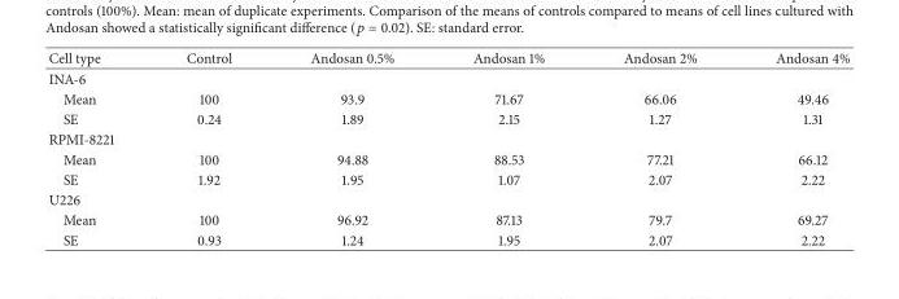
<table><thead><tr><td>Cell type</td><td>Control</td><td>Andosan 0.5%</td><td>Andosan 1%</td><td>Andosan 2%</td><td>Andosan 4%</td></tr></thead><tbody><tr><td colspan="6">INA-6</td></tr><tr><td>Mean</td><td>100</td><td>93.9</td><td>71.67</td><td>66.06</td><td>49.46</td></tr><tr><td>SE</td><td>0.24</td><td>1.89</td><td>2.15</td><td>1.27</td><td>1.31</td></tr><tr><td colspan="6">RPMI-8221</td></tr><tr><td>Mean</td><td>100</td><td>94.88</td><td>88.53</td><td>77.21</td><td>66.12</td></tr><tr><td>SE</td><td>1.92</td><td>1.95</td><td>1.07</td><td>2.07</td><td>2.22</td></tr><tr><td colspan="6">U226</td></tr><tr><td>Mean</td><td>100</td><td>96.92</td><td>87.13</td><td>79.7</td><td>69.27</td></tr><tr><td>SE</td><td>0.93</td><td>1.24</td><td>1.95</td><td>2.07</td><td>2.22</td></tr></tbody></table>